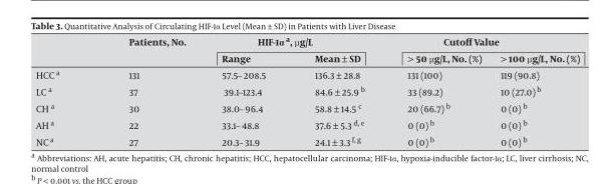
<table><thead><tr><td rowspan="2"></td><td rowspan="2">Patients, No.</td><td colspan="2">HIF-1α a, μg/L</td><td colspan="2">Cutoff Value</td></tr><tr><td>Range</td><td>Mean ± SD</td><td>&gt; 50 μg/L, No. (%)</td><td>&gt; 100 μg/L, No. (%)</td></tr></thead><tbody><tr><td>HCC a</td><td>131</td><td>57.5– 208.5</td><td>136.3 ± 28.8</td><td>131 (100)</td><td>119 (90.8)</td></tr><tr><td>LC a</td><td>37</td><td>39.1–123.4</td><td>84.6 ± 25.9 b</td><td>33 (89.2)</td><td>10 (27.0) b</td></tr><tr><td>CH a</td><td>30</td><td>38.0– 96.4</td><td>58.8 ± 14.5 c</td><td>20 (66.7) b</td><td>0 (0) b</td></tr><tr><td>AH a</td><td>22</td><td>33.1– 48.8</td><td>37.6 ± 5.3 d, e</td><td>0 (0) b</td><td>0 (0) b</td></tr><tr><td>NC a</td><td>27</td><td>20.3– 31.9</td><td>24.1 ± 3.3 f, g</td><td>0 (0) b</td><td>0 (0) b</td></tr></tbody></table>